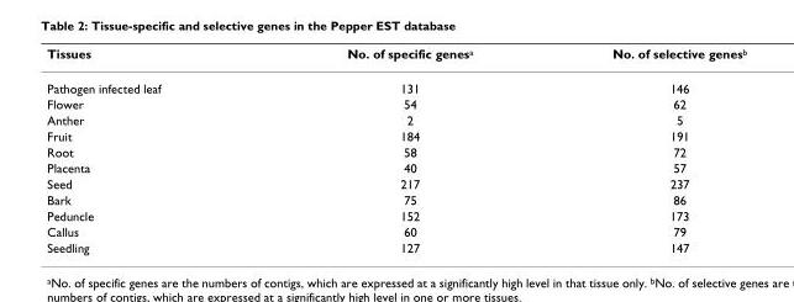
<table><thead><tr><td>Tissues</td><td>No. of specific genes<sup>a</sup></td><td>No. of selective genes<sup>b</sup></td></tr></thead><tbody><tr><td>Pathogen infected leaf</td><td>131</td><td>146</td></tr><tr><td>Flower</td><td>54</td><td>62</td></tr><tr><td>Anther</td><td>2</td><td>5</td></tr><tr><td>Fruit</td><td>184</td><td>191</td></tr><tr><td>Root</td><td>58</td><td>72</td></tr><tr><td>Placenta</td><td>40</td><td>57</td></tr><tr><td>Seed</td><td>217</td><td>237</td></tr><tr><td>Bark</td><td>75</td><td>86</td></tr><tr><td>Peduncle</td><td>152</td><td>173</td></tr><tr><td>Callus</td><td>60</td><td>79</td></tr><tr><td>Seedling</td><td>127</td><td>147</td></tr></tbody></table>